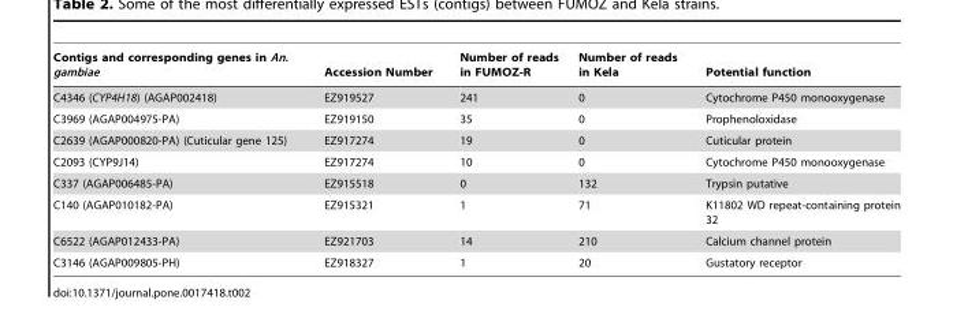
<table><thead><tr><td>Contigs and corresponding genes in An. gambiae</td><td>Accession Number</td><td>Number of reads in FUMOZ-R</td><td>Number of reads in Kela</td><td>Potential function</td></tr></thead><tbody><tr><td>C4346 (CYP4H18) (AGAP002418)</td><td>EZ919527</td><td>241</td><td>0</td><td>Cytochrome P450 monooxygenase</td></tr><tr><td>C3969 (AGAP004975-PA)</td><td>EZ919150</td><td>35</td><td>0</td><td>Prophenoloxidase</td></tr><tr><td>C2639 (AGAP000820-PA) (Cuticular gene 125)</td><td>EZ917274</td><td>19</td><td>0</td><td>Cuticular protein</td></tr><tr><td>C2093 (CYP9J14)</td><td>EZ917274</td><td>10</td><td>0</td><td>Cytochrome P450 monooxygenase</td></tr><tr><td>C337 (AGAP006485-PA)</td><td>EZ915518</td><td>0</td><td>132</td><td>Trypsin putative</td></tr><tr><td>C140 (AGAP010182-PA)</td><td>EZ915321</td><td>1</td><td>71</td><td>K11802 WD repeat-containing protein 32</td></tr><tr><td>C6522 (AGAP012433-PA)</td><td>EZ921703</td><td>14</td><td>210</td><td>Calcium channel protein</td></tr><tr><td>C3146 (AGAP009805-PH)</td><td>EZ918327</td><td>1</td><td>20</td><td>Gustatory receptor</td></tr></tbody></table>